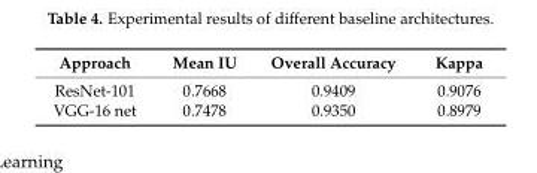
<table><thead><tr><td>Approach</td><td>Mean IU</td><td>Overall Accuracy</td><td>Kappa</td></tr></thead><tbody><tr><td>ResNet-101</td><td>0.7668</td><td>0.9409</td><td>0.9076</td></tr><tr><td>VGG-16 net</td><td>0.7478</td><td>0.9350</td><td>0.8979</td></tr></tbody></table>